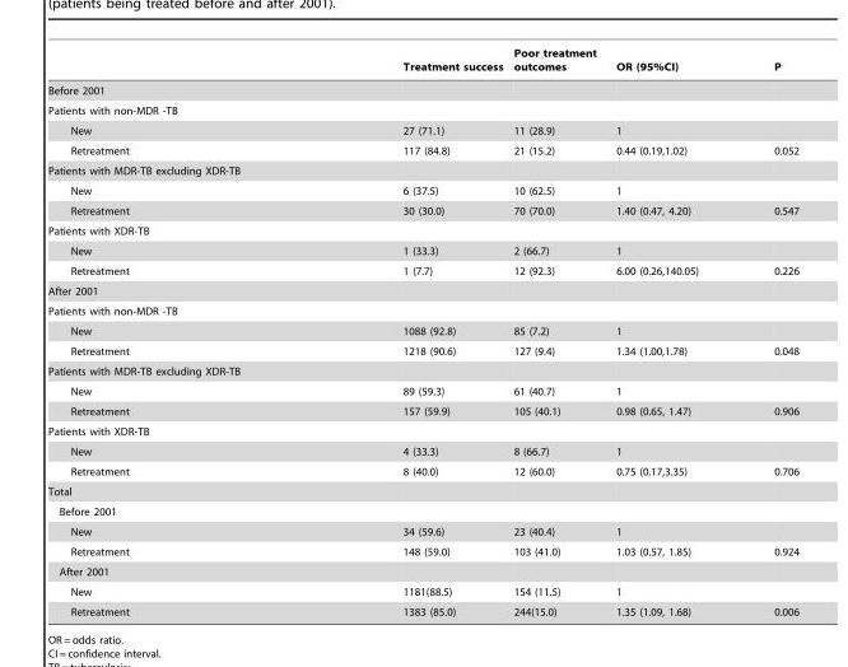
<table><thead><tr><td></td><td>Treatment success</td><td>Poor treatment outcomes</td><td>OR (95%CI)</td><td>P</td></tr></thead><tbody><tr><td colspan="5">Before 2001</td></tr><tr><td colspan="5">Patients with non-MDR -TB</td></tr><tr><td>New</td><td>27 (71.1)</td><td>11 (28.9)</td><td>1</td><td></td></tr><tr><td>Retreatment</td><td>117 (84.8)</td><td>21 (15.2)</td><td>0.44 (0.19,1.02)</td><td>0.052</td></tr><tr><td colspan="5">Patients with MDR-TB excluding XDR-TB</td></tr><tr><td>New</td><td>6 (37.5)</td><td>10 (62.5)</td><td>1</td><td></td></tr><tr><td>Retreatment</td><td>30 (30.0)</td><td>70 (70.0)</td><td>1.40 (0.47, 4.20)</td><td>0.547</td></tr><tr><td colspan="5">Patients with XDR-TB</td></tr><tr><td>New</td><td>1 (33.3)</td><td>2 (66.7)</td><td>1</td><td></td></tr><tr><td>Retreatment</td><td>1 (7.7)</td><td>12 (92.3)</td><td>6.00 (0.26,140.05)</td><td>0.226</td></tr><tr><td colspan="5">After 2001</td></tr><tr><td colspan="5">Patients with non-MDR -TB</td></tr><tr><td>New</td><td>1088 (92.8)</td><td>85 (7.2)</td><td>1</td><td></td></tr><tr><td>Retreatment</td><td>1218 (90.6)</td><td>127 (9.4)</td><td>1.34 (1.00,1.78)</td><td>0.048</td></tr><tr><td colspan="5">Patients with MDR-TB excluding XDR-TB</td></tr><tr><td>New</td><td>89 (59.3)</td><td>61 (40.7)</td><td>1</td><td></td></tr><tr><td>Retreatment</td><td>157 (59.9)</td><td>105 (40.1)</td><td>0.98 (0.65, 1.47)</td><td>0.906</td></tr><tr><td colspan="5">Patients with XDR-TB</td></tr><tr><td>New</td><td>4 (33.3)</td><td>8 (66.7)</td><td>1</td><td></td></tr><tr><td>Retreatment</td><td>8 (40.0)</td><td>12 (60.0)</td><td>0.75 (0.17,3.35)</td><td>0.706</td></tr><tr><td colspan="5">Total</td></tr><tr><td colspan="5">Before 2001</td></tr><tr><td>New</td><td>34 (59.6)</td><td>23 (40.4)</td><td>1</td><td></td></tr><tr><td>Retreatment</td><td>148 (59.0)</td><td>103 (41.0)</td><td>1.03 (0.57, 1.85)</td><td>0.924</td></tr><tr><td colspan="5">After 2001</td></tr><tr><td>New</td><td>1181(88.5)</td><td>154 (11.5)</td><td>1</td><td></td></tr><tr><td>Retreatment</td><td>1383 (85.0)</td><td>244(15.0)</td><td>1.35 (1.09, 1.68)</td><td>0.006</td></tr></tbody></table>